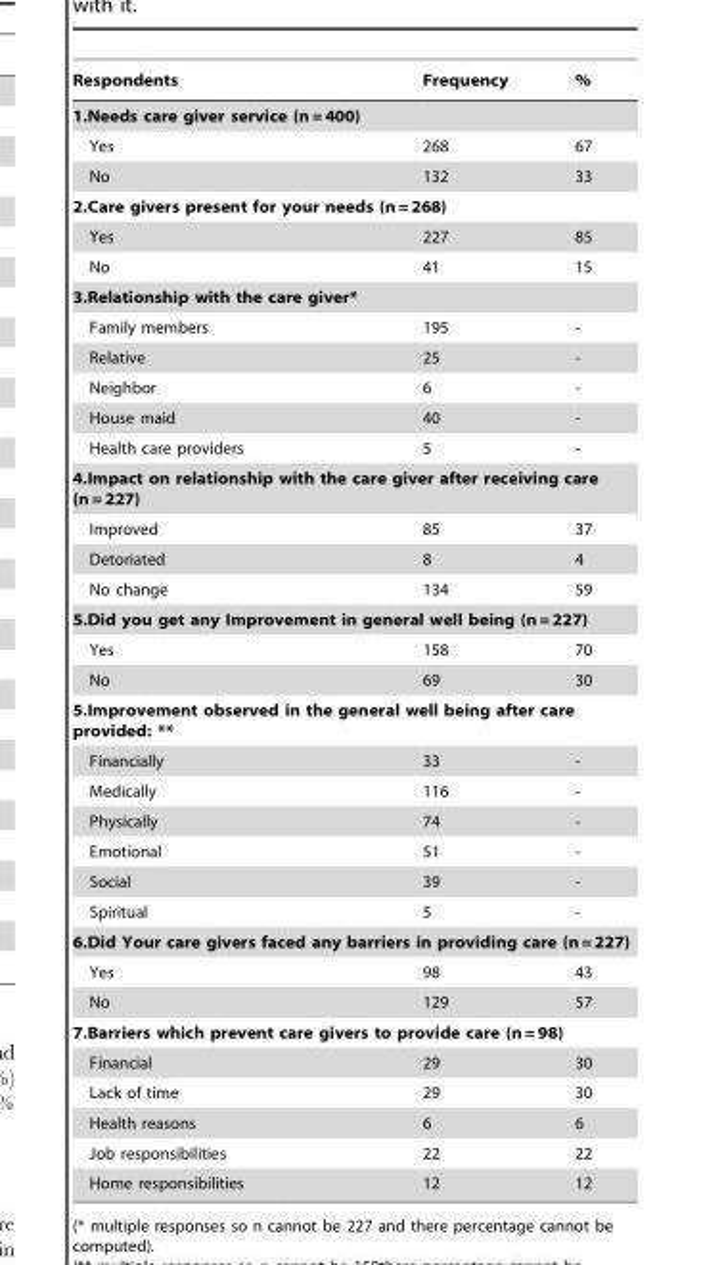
<table><thead><tr><td>Respondents</td><td>Frequency</td><td>%</td></tr></thead><tbody><tr><td colspan="3">1.Needs care giver service (n = 400)</td></tr><tr><td>Yes</td><td>268</td><td>67</td></tr><tr><td>No</td><td>132</td><td>33</td></tr><tr><td colspan="3">2.Care givers present for your needs (n = 268)</td></tr><tr><td>Yes</td><td>227</td><td>85</td></tr><tr><td>No</td><td>41</td><td>15</td></tr><tr><td colspan="3">3.Relationship with the care giver*</td></tr><tr><td>Family members</td><td>195</td><td>-</td></tr><tr><td>Relative</td><td>25</td><td>-</td></tr><tr><td>Neighbor</td><td>6</td><td>-</td></tr><tr><td>House maid</td><td>40</td><td>-</td></tr><tr><td>Health care providers</td><td>5</td><td>-</td></tr><tr><td colspan="3">4.Impact on relationship with the care giver after receiving care (n = 227)</td></tr><tr><td>Improved</td><td>85</td><td>37</td></tr><tr><td>Detoriated</td><td>8</td><td>4</td></tr><tr><td>No change</td><td>134</td><td>59</td></tr><tr><td colspan="3">5.Did you get any Improvement in general well being (n = 227)</td></tr><tr><td>Yes</td><td>158</td><td>70</td></tr><tr><td>No</td><td>69</td><td>30</td></tr><tr><td colspan="3">5.Improvement observed in the general well being after care provided: **</td></tr><tr><td>Financially</td><td>33</td><td>-</td></tr><tr><td>Medically</td><td>116</td><td>-</td></tr><tr><td>Physically</td><td>74</td><td>-</td></tr><tr><td>Emotional</td><td>51</td><td>-</td></tr><tr><td>Social</td><td>39</td><td>-</td></tr><tr><td>Spiritual</td><td>5</td><td>-</td></tr><tr><td colspan="3">6.Did Your care givers faced any barriers in providing care (n = 227)</td></tr><tr><td>Yes</td><td>98</td><td>43</td></tr><tr><td>No</td><td>129</td><td>57</td></tr><tr><td colspan="3">7.Barriers which prevent care givers to provide care (n = 98)</td></tr><tr><td>Financial</td><td>29</td><td>30</td></tr><tr><td>Lack of time</td><td>29</td><td>30</td></tr><tr><td>Health reasons</td><td>6</td><td>6</td></tr><tr><td>Job responsibilities</td><td>22</td><td>22</td></tr><tr><td>Home responsibilities</td><td>12</td><td>12</td></tr></tbody></table>